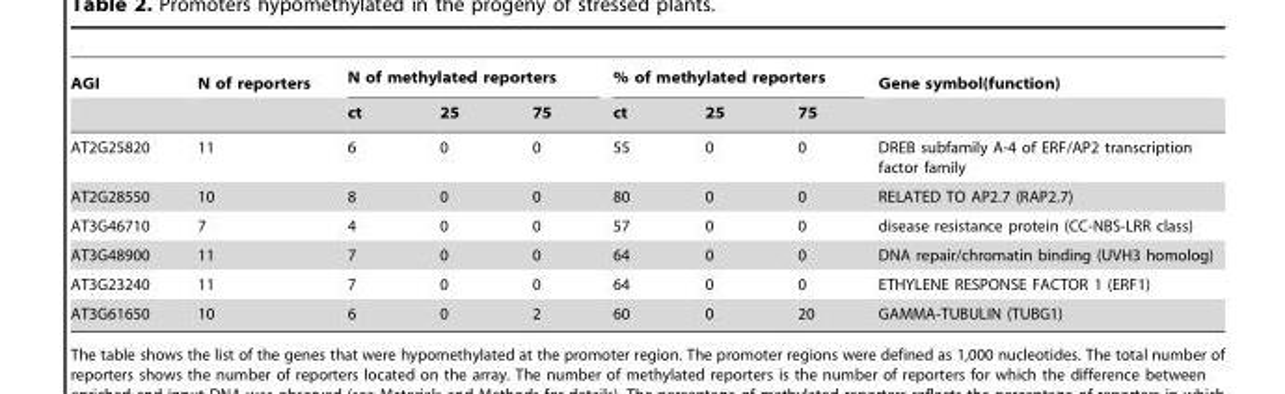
<table><thead><tr><td rowspan="2">AGI</td><td rowspan="2">N of reporters</td><td colspan="3">N of methylated reporters</td><td colspan="3">% of methylated reporters</td><td rowspan="2">Gene symbol(function)</td></tr><tr><td>ct</td><td>25</td><td>75</td><td>ct</td><td>25</td><td>75</td></tr></thead><tbody><tr><td>AT2G25820</td><td>11</td><td>6</td><td>0</td><td>0</td><td>55</td><td>0</td><td>0</td><td>DREB subfamily A-4 of ERF/AP2 transcription factor family</td></tr><tr><td>AT2G28550</td><td>10</td><td>8</td><td>0</td><td>0</td><td>80</td><td>0</td><td>0</td><td>RELATED TO AP2.7 (RAP2.7)</td></tr><tr><td>AT3G46710</td><td>7</td><td>4</td><td>0</td><td>0</td><td>57</td><td>0</td><td>0</td><td>disease resistance protein (CC-NBS-LRR class)</td></tr><tr><td>AT3G48900</td><td>11</td><td>7</td><td>0</td><td>0</td><td>64</td><td>0</td><td>0</td><td>DNA repair/chromatin binding (UVH3 homolog)</td></tr><tr><td>AT3G23240</td><td>11</td><td>7</td><td>0</td><td>0</td><td>64</td><td>0</td><td>0</td><td>ETHYLENE RESPONSE FACTOR 1 (ERF1)</td></tr><tr><td>AT3G61650</td><td>10</td><td>6</td><td>0</td><td>2</td><td>60</td><td>0</td><td>20</td><td>GAMMA-TUBULIN (TUBG1)</td></tr></tbody></table>